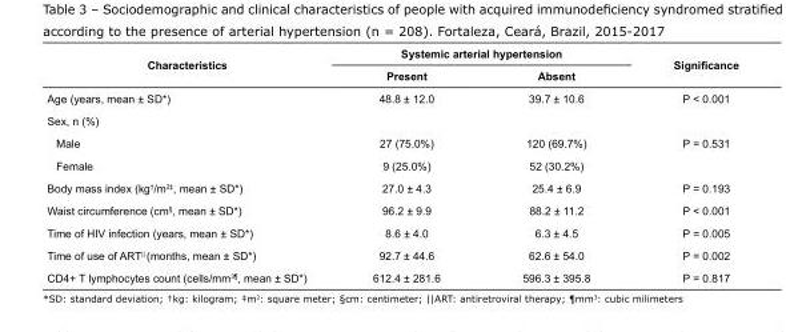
<table><tbody><tr><td rowspan="2">Characteristics</td><td colspan="2">Systemic arterial hypertension</td><td rowspan="2">Significance</td></tr><tr><td>Present</td><td>Absent</td></tr><tr><td>Age (years, mean ± SD*)</td><td>48.8 ± 12.0</td><td>39.7 ± 10.6</td><td>P &lt; 0.001</td></tr><tr><td colspan="4">Sex, n (%)</td></tr><tr><td>Male</td><td>27 (75.0%)</td><td>120 (69.7%)</td><td>P = 0.531</td></tr><tr><td>Female</td><td>9 (25.0%)</td><td>52 (30.2%)</td><td></td></tr><tr><td>Body mass index (kg<sup>†</sup>/m<sup>2‡</sup>, mean ± SD*)</td><td>27.0 ± 4.3</td><td>25.4 ± 6.9</td><td>P = 0.193</td></tr><tr><td>Waist circumference (cm<sup>§</sup>, mean ± SD*)</td><td>96.2 ± 9.9</td><td>88.2 ± 11.2</td><td>P &lt; 0.001</td></tr><tr><td>Time of HIV infection (years, mean ± SD*)</td><td>8.6 ± 4.0</td><td>6.3 ± 4.5</td><td>P = 0.005</td></tr><tr><td>Time of use of ART<sup>||</sup> (months, mean ± SD*)</td><td>92.7 ± 44.6</td><td>62.6 ± 54.0</td><td>P = 0.002</td></tr><tr><td>CD4+ T lymphocytes count (cells/mm<sup>3¶</sup>, mean ± SD*)</td><td>612.4 ± 281.6</td><td>596.3 ± 395.8</td><td>P = 0.817</td></tr></tbody></table>